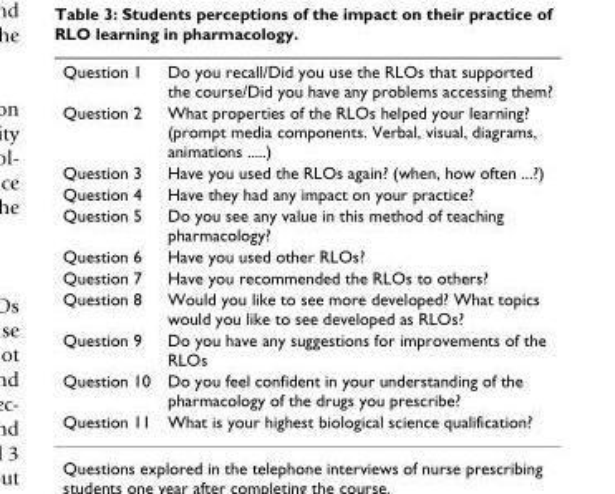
<table><tbody><tr><td>Question 1</td><td>Do you recall/Did you use the RLOs that supported the course/Did you have any problems accessing them?</td></tr><tr><td>Question 2</td><td>What properties of the RLOs helped your learning? (prompt media components. Verbal, visual, diagrams, animations .....)</td></tr><tr><td>Question 3</td><td>Have you used the RLOs again? (when, how often ...?)</td></tr><tr><td>Question 4</td><td>Have they had any impact on your practice?</td></tr><tr><td>Question 5</td><td>Do you see any value in this method of teaching pharmacology?</td></tr><tr><td>Question 6</td><td>Have you used other RLOs?</td></tr><tr><td>Question 7</td><td>Have you recommended the RLOs to others?</td></tr><tr><td>Question 8</td><td>Would you like to see more developed? What topics would you like to see developed as RLOs?</td></tr><tr><td>Question 9</td><td>Do you have any suggestions for improvements of the RLOs</td></tr><tr><td>Question 10</td><td>Do you feel confident in your understanding of the pharmacology of the drugs you prescribe?</td></tr><tr><td>Question 11</td><td>What is your highest biological science qualification?</td></tr></tbody></table>